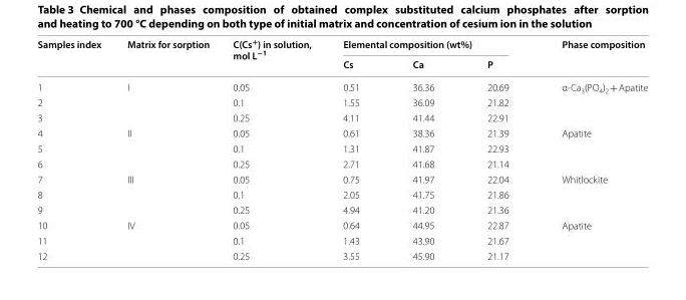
<table><thead><tr><td rowspan="2">Samples index</td><td rowspan="2">Matrix for sorption</td><td rowspan="2">C(Cs<sup>+</sup>) in solution, mol L<sup>−1</sup></td><td colspan="3">Elemental composition (wt%)</td><td rowspan="2">Phase composition</td></tr><tr><td>Cs</td><td>Ca</td><td>P</td></tr></thead><tbody><tr><td>1</td><td rowspan="3">I</td><td>0.05</td><td>0.51</td><td>36.36</td><td>20.69</td><td rowspan="3">α-Ca<sub>3</sub>(PO<sub>4</sub>)<sub>2</sub> + Apatite</td></tr><tr><td>2</td><td>0.1</td><td>1.55</td><td>36.09</td><td>21.82</td></tr><tr><td>3</td><td>0.25</td><td>4.11</td><td>41.44</td><td>22.91</td></tr><tr><td>4</td><td rowspan="3">II</td><td>0.05</td><td>0.61</td><td>38.36</td><td>21.39</td><td rowspan="3">Apatite</td></tr><tr><td>5</td><td>0.1</td><td>1.31</td><td>41.87</td><td>22.93</td></tr><tr><td>6</td><td>0.25</td><td>2.71</td><td>41.68</td><td>21.14</td></tr><tr><td>7</td><td rowspan="3">III</td><td>0.05</td><td>0.75</td><td>41.97</td><td>22.04</td><td rowspan="3">Whitlockite</td></tr><tr><td>8</td><td>0.1</td><td>2.05</td><td>41.75</td><td>21.86</td></tr><tr><td>9</td><td>0.25</td><td>4.94</td><td>41.20</td><td>21.36</td></tr><tr><td>10</td><td rowspan="3">IV</td><td>0.05</td><td>0.64</td><td>44.95</td><td>22.87</td><td rowspan="3">Apatite</td></tr><tr><td>11</td><td>0.1</td><td>1.43</td><td>43.90</td><td>21.67</td></tr><tr><td>12</td><td>0.25</td><td>3.55</td><td>45.90</td><td>21.17</td></tr></tbody></table>